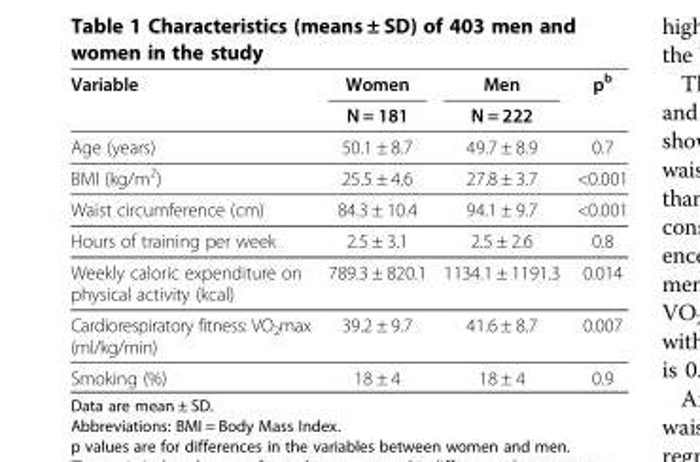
<table><thead><tr><td rowspan="2">Variable</td><td rowspan="2">Women N = 181</td><td rowspan="2">Men N = 222</td><td rowspan="2">p<sup>b</sup></td></tr><tr></tr></thead><tbody><tr><td>Age (years)</td><td>50.1 ± 8.7</td><td>49.7 ± 8.9</td><td>0.7</td></tr><tr><td>BMI (kg/m<sup>2</sup>)</td><td>25.5 ± 4.6</td><td>27.8 ± 3.7</td><td>&lt;0.001</td></tr><tr><td>Waist circumference (cm)</td><td>84.3 ± 10.4</td><td>94.1 ± 9.7</td><td>&lt;0.001</td></tr><tr><td>Hours of training per week</td><td>2.5 ± 3.1</td><td>2.5 ± 2.6</td><td>0.8</td></tr><tr><td>Weekly caloric expenditure on physical activity (kcal)</td><td>789.3 ± 820.1</td><td>1134.1 ± 1191.3</td><td>0.014</td></tr><tr><td>Cardiorespiratory fitness: VO<sub>2</sub>max (ml/kg/min)</td><td>39.2 ± 9.7</td><td>41.6 ± 8.7</td><td>0.007</td></tr><tr><td>Smoking (%)</td><td>18 ± 4</td><td>18 ± 4</td><td>0.9</td></tr></tbody></table>